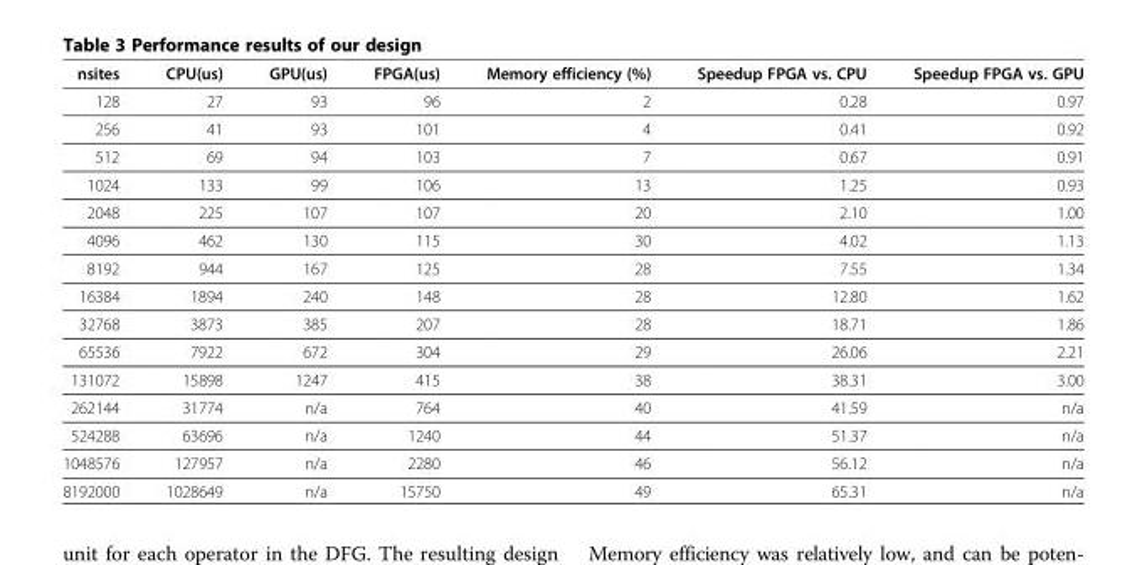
<table><thead><tr><td>nsites</td><td>CPU(us)</td><td>GPU(us)</td><td>FPGA(us)</td><td>Memory efficiency (%)</td><td>Speedup FPGA vs. CPU</td><td>Speedup FPGA vs. GPU</td></tr></thead><tbody><tr><td>128</td><td>27</td><td>93</td><td>96</td><td>2</td><td>0.28</td><td>0.97</td></tr><tr><td>256</td><td>41</td><td>93</td><td>101</td><td>4</td><td>0.41</td><td>0.92</td></tr><tr><td>512</td><td>69</td><td>94</td><td>103</td><td>7</td><td>0.67</td><td>0.91</td></tr><tr><td>1024</td><td>133</td><td>99</td><td>106</td><td>13</td><td>1.25</td><td>0.93</td></tr><tr><td>2048</td><td>225</td><td>107</td><td>107</td><td>20</td><td>2.10</td><td>1.00</td></tr><tr><td>4096</td><td>462</td><td>130</td><td>115</td><td>30</td><td>4.02</td><td>1.13</td></tr><tr><td>8192</td><td>944</td><td>167</td><td>125</td><td>28</td><td>7.55</td><td>1.34</td></tr><tr><td>16384</td><td>1894</td><td>240</td><td>148</td><td>28</td><td>12.80</td><td>1.62</td></tr><tr><td>32768</td><td>3873</td><td>385</td><td>207</td><td>28</td><td>18.71</td><td>1.86</td></tr><tr><td>65536</td><td>7922</td><td>672</td><td>304</td><td>29</td><td>26.06</td><td>2.21</td></tr><tr><td>131072</td><td>15898</td><td>1247</td><td>415</td><td>38</td><td>38.31</td><td>3.00</td></tr><tr><td>262144</td><td>31774</td><td>n/a</td><td>764</td><td>40</td><td>41.59</td><td>n/a</td></tr><tr><td>524288</td><td>63696</td><td>n/a</td><td>1240</td><td>44</td><td>51.37</td><td>n/a</td></tr><tr><td>1048576</td><td>127957</td><td>n/a</td><td>2280</td><td>46</td><td>56.12</td><td>n/a</td></tr><tr><td>8192000</td><td>1028649</td><td>n/a</td><td>15750</td><td>49</td><td>65.31</td><td>n/a</td></tr></tbody></table>